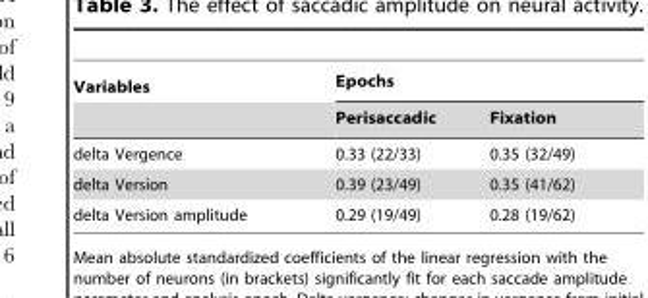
<table><thead><tr><td rowspan="2">Variables</td><td colspan="2">Epochs</td></tr><tr><td>Perisaccadic</td><td>Fixation</td></tr></thead><tbody><tr><td>delta Vergence</td><td>0.33 (22/33)</td><td>0.35 (32/49)</td></tr><tr><td>delta Version</td><td>0.39 (23/49)</td><td>0.35 (41/62)</td></tr><tr><td>delta Version amplitude</td><td>0.29 (19/49)</td><td>0.28 (19/62)</td></tr></tbody></table>